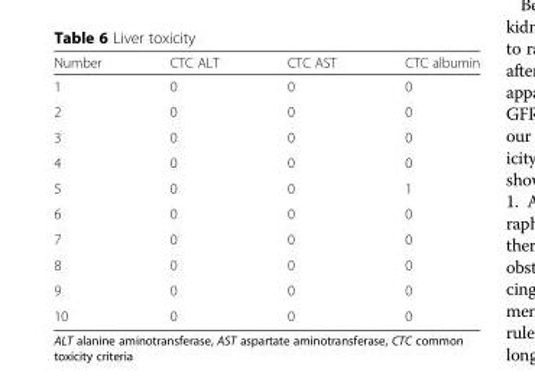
<table><thead><tr><td>Number</td><td>CTC ALT</td><td>CTC AST</td><td>CTC albumin</td></tr></thead><tbody><tr><td>1</td><td>0</td><td>0</td><td>0</td></tr><tr><td>2</td><td>0</td><td>0</td><td>0</td></tr><tr><td>3</td><td>0</td><td>0</td><td>0</td></tr><tr><td>4</td><td>0</td><td>0</td><td>0</td></tr><tr><td>5</td><td>0</td><td>0</td><td>1</td></tr><tr><td>6</td><td>0</td><td>0</td><td>0</td></tr><tr><td>7</td><td>0</td><td>0</td><td>0</td></tr><tr><td>8</td><td>0</td><td>0</td><td>0</td></tr><tr><td>9</td><td>0</td><td>0</td><td>0</td></tr><tr><td>10</td><td>0</td><td>0</td><td>0</td></tr></tbody></table>